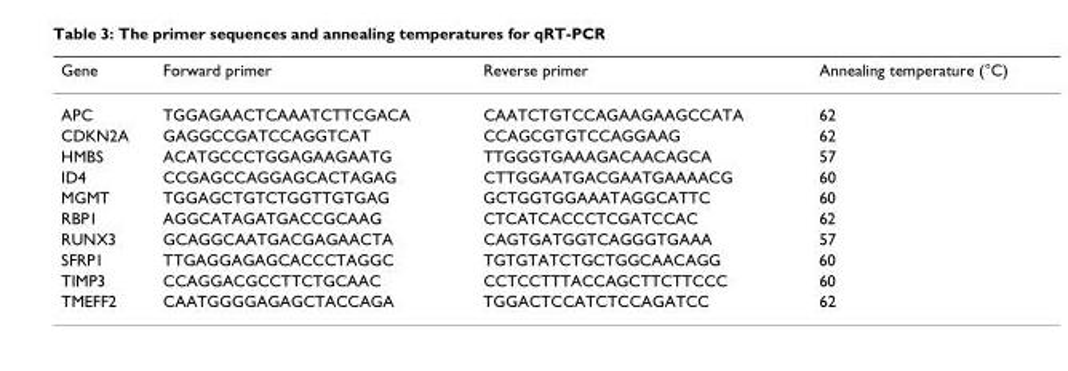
<table><thead><tr><td>Gene</td><td>Forward primer</td><td>Reverse primer</td><td>Annealing temperature (°C)</td></tr></thead><tbody><tr><td>APC</td><td>TGGAGAACTCAAATCTTCGACA</td><td>CAATCTGTCCAGAAGAAGCCATA</td><td>62</td></tr><tr><td>CDKN2A</td><td>GAGGCCGATCCAGGTCAT</td><td>CCAGCGTGTCCAGGAAG</td><td>62</td></tr><tr><td>HMBS</td><td>ACATGCCCTGGAGAAGAATG</td><td>TTGGGTGAAAGACAACAGCA</td><td>57</td></tr><tr><td>ID4</td><td>CCGAGCCAGGAGCACTAGAG</td><td>CTTGGAATGACGAATGAAAACG</td><td>60</td></tr><tr><td>MGMT</td><td>TGGAGCTGTCTGGTTGTGAG</td><td>GCTGGTGGAAATAGGCATTC</td><td>60</td></tr><tr><td>RBP1</td><td>AGGCATAGATGACCGCAAG</td><td>CTCATCACCCTCGATCCAC</td><td>62</td></tr><tr><td>RUNX3</td><td>GCAGGCAATGACGAGAACTA</td><td>CAGTGATGGTCAGGGTGAAA</td><td>57</td></tr><tr><td>SFRP1</td><td>TTGAGGAGAGCACCCTAGGC</td><td>TGTGTATCTGCTGGCAACAGG</td><td>60</td></tr><tr><td>TIMP3</td><td>CCAGGACGCCTTCTGCAAC</td><td>CCTCCTTTACCAGCTTCTTCCC</td><td>60</td></tr><tr><td>TMEFF2</td><td>CAATGGGGAGAGCTACCAGA</td><td>TGGACTCCATCTCCAGATCC</td><td>62</td></tr></tbody></table>